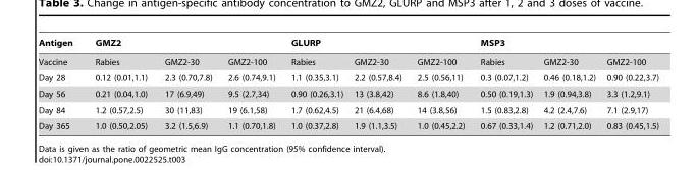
<table><thead><tr><td rowspan="2">Antigen Vaccine</td><td colspan="3">GMZ2</td><td colspan="3">GLURP</td><td colspan="3">MSP3</td></tr><tr><td>Rabies</td><td>GMZ2-30</td><td>GMZ2-100</td><td>Rabies</td><td>GMZ2-30</td><td>GMZ2-100</td><td>Rabies</td><td>GMZ2-30</td><td>GMZ2-100</td></tr></thead><tbody><tr><td>Day 28</td><td>0.12 (0.01,1.1)</td><td>2.3 (0.70,7.8)</td><td>2.6 (0.74,9.1)</td><td>1.1 (0.35,3.1)</td><td>2.2 (0.57,8.4)</td><td>2.5 (0.56,11)</td><td>0.3 (0.07,1.2)</td><td>0.46 (0.18,1.2)</td><td>0.90 (0.22,3.7)</td></tr><tr><td>Day 56</td><td>0.21 (0.04,1.0)</td><td>17 (6.9,49)</td><td>9.5 (2.7,34)</td><td>0.90 (0.26,3.1)</td><td>13 (3.8,42)</td><td>8.6 (1.8,40)</td><td>0.50 (0.19,1.3)</td><td>1.9 (0.94,3.8)</td><td>3.3 (1.2,9.1)</td></tr><tr><td>Day 84</td><td>1.2 (0.57,2.5)</td><td>30 (11,83)</td><td>19 (6.1,58)</td><td>1.7 (0.62,4.5)</td><td>21 (6.4,68)</td><td>14 (3.8,56)</td><td>1.5 (0.83,2.8)</td><td>4.2 (2.4,7.6)</td><td>7.1 (2.9,17)</td></tr><tr><td>Day 365</td><td>1.0 (0.50,2.05)</td><td>3.2 (1.5,6.9)</td><td>1.1 (0.70,1.8)</td><td>1.0 (0.37,2.8)</td><td>1.9 (1.1,3.5)</td><td>1.0 (0.45,2.2)</td><td>0.67 (0.33,1.4)</td><td>1.2 (0.71,2.0)</td><td>0.83 (0.45,1.5)</td></tr></tbody></table>